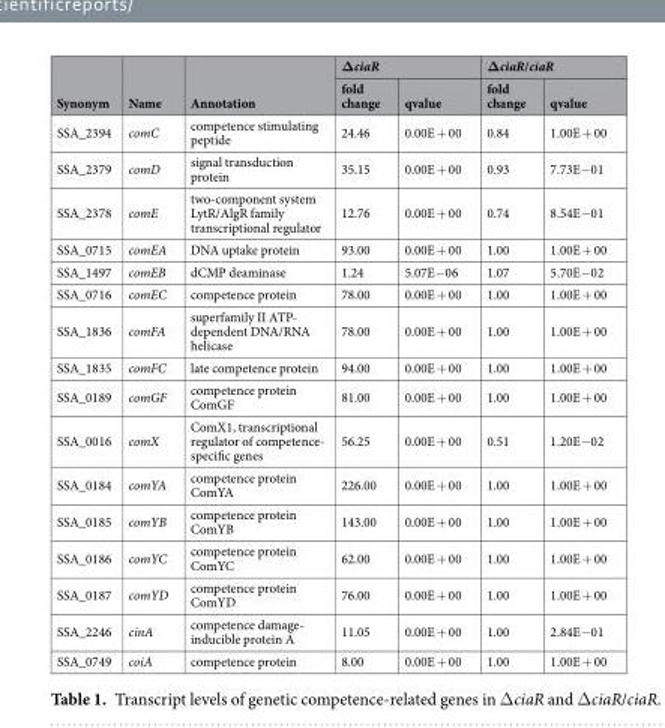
<table><thead><tr><td rowspan="2">Synonym</td><td rowspan="2">Name</td><td rowspan="2">Annotation</td><td colspan="2">ΔciaR</td><td colspan="2">ΔciaR/ciaR</td></tr><tr><td>fold change</td><td>qvalue</td><td>fold change</td><td>qvalue</td></tr></thead><tbody><tr><td>SSA_2394</td><td>comC</td><td>competence stimulating peptide</td><td>24.46</td><td>0.00E + 00</td><td>0.84</td><td>1.00E + 00</td></tr><tr><td>SSA_2379</td><td>comD</td><td>signal transduction protein</td><td>35.15</td><td>0.00E + 00</td><td>0.93</td><td>7.73E−01</td></tr><tr><td>SSA_2378</td><td>comE</td><td>two-component system LytR/AlgR family transcriptional regulator</td><td>12.76</td><td>0.00E + 00</td><td>0.74</td><td>8.54E−01</td></tr><tr><td>SSA_0715</td><td>comEA</td><td>DNA uptake protein</td><td>93.00</td><td>0.00E + 00</td><td>1.00</td><td>1.00E + 00</td></tr><tr><td>SSA_1497</td><td>comEB</td><td>dCMP deaminase</td><td>1.24</td><td>5.07E−06</td><td>1.07</td><td>5.70E−02</td></tr><tr><td>SSA_0716</td><td>comEC</td><td>competence protein</td><td>78.00</td><td>0.00E + 00</td><td>1.00</td><td>1.00E + 00</td></tr><tr><td>SSA_1836</td><td>comFA</td><td>superfamily II ATP- dependent DNA/RNA helicase</td><td>78.00</td><td>0.00E + 00</td><td>1.00</td><td>1.00E + 00</td></tr><tr><td>SSA_1835</td><td>comFC</td><td>late competence protein</td><td>94.00</td><td>0.00E + 00</td><td>1.00</td><td>1.00E + 00</td></tr><tr><td>SSA_0189</td><td>comGF</td><td>competence protein ComGF</td><td>81.00</td><td>0.00E + 00</td><td>1.00</td><td>1.00E + 00</td></tr><tr><td>SSA_0016</td><td>comX</td><td>ComX1, transcriptional regulator of competence- specific genes</td><td>56.25</td><td>0.00E + 00</td><td>0.51</td><td>1.20E−02</td></tr><tr><td>SSA_0184</td><td>comYA</td><td>competence protein ComYA</td><td>226.00</td><td>0.00E + 00</td><td>1.00</td><td>1.00E + 00</td></tr><tr><td>SSA_0185</td><td>comYB</td><td>competence protein ComYB</td><td>143.00</td><td>0.00E + 00</td><td>1.00</td><td>1.00E + 00</td></tr><tr><td>SSA_0186</td><td>comYC</td><td>competence protein ComYC</td><td>62.00</td><td>0.00E + 00</td><td>1.00</td><td>1.00E + 00</td></tr><tr><td>SSA_0187</td><td>comYD</td><td>competence protein ComYD</td><td>76.00</td><td>0.00E + 00</td><td>1.00</td><td>1.00E + 00</td></tr><tr><td>SSA_2246</td><td>cinA</td><td>competence damage- inducible protein A</td><td>11.05</td><td>0.00E + 00</td><td>1.00</td><td>2.84E−01</td></tr><tr><td>SSA_0749</td><td>coiA</td><td>competence protein</td><td>8.00</td><td>0.00E + 00</td><td>1.00</td><td>1.00E + 00</td></tr></tbody></table>